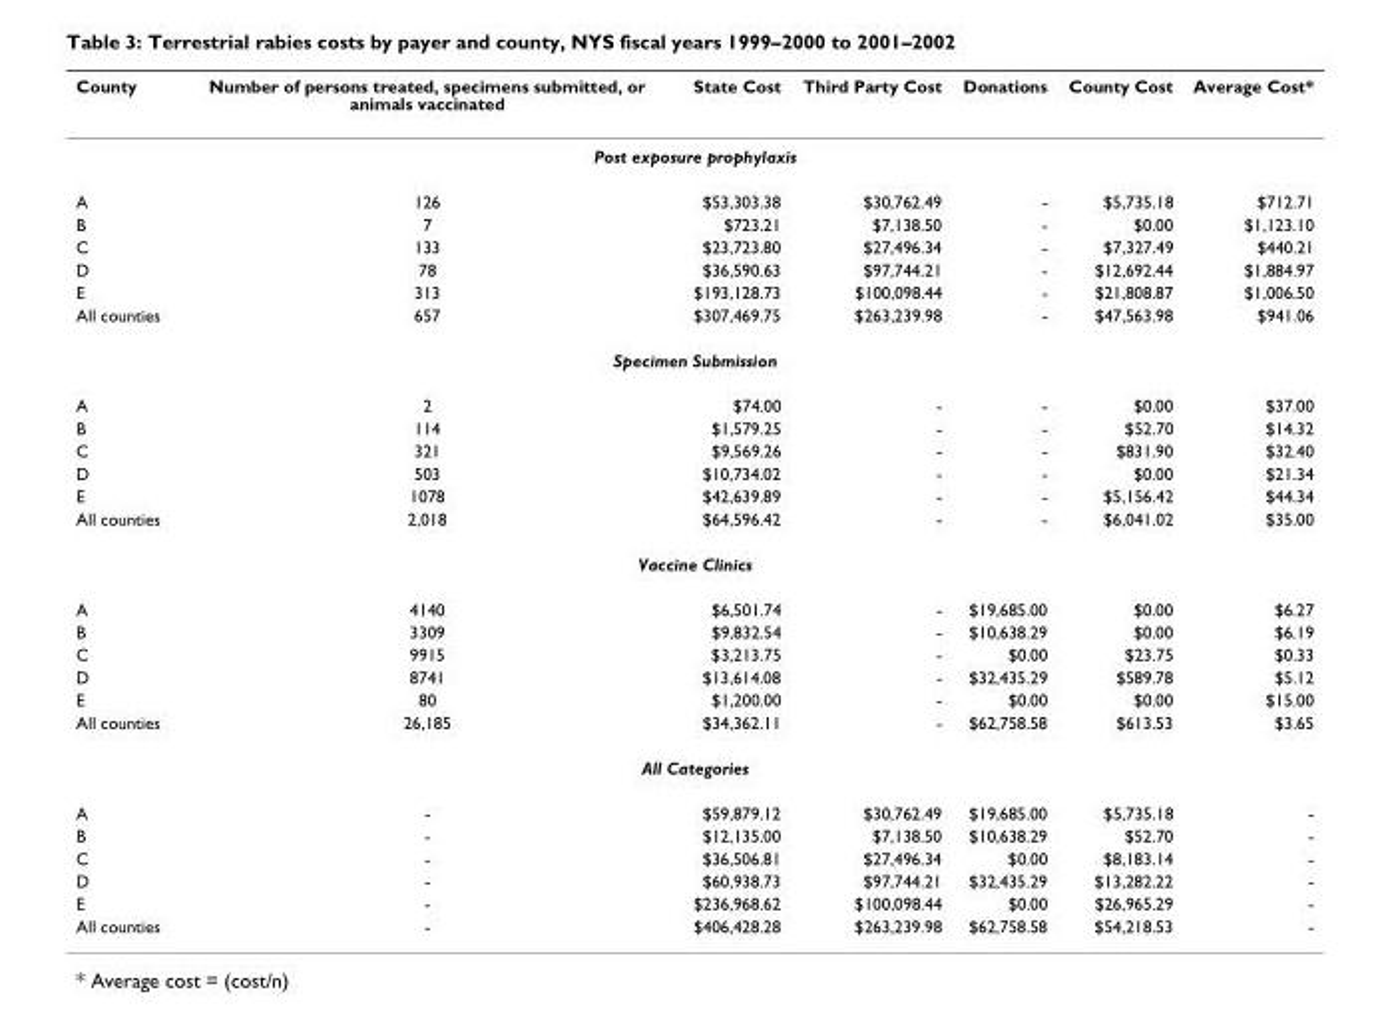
<table><thead><tr><td>County</td><td>Number of persons treated, specimens submitted, or animals vaccinated</td><td>State Cost</td><td>Third Party Cost</td><td>Donations</td><td>County Cost</td><td>Average Cost*</td></tr></thead><tbody><tr><td colspan="7">Post exposure prophylaxis</td></tr><tr><td>A</td><td>126</td><td>$53,303.38</td><td>$30,762.49</td><td>-</td><td>$5,735.18</td><td>$712.71</td></tr><tr><td>B</td><td>7</td><td>$723.21</td><td>$7,138.50</td><td>-</td><td>$0.00</td><td>$1,123.10</td></tr><tr><td>C</td><td>133</td><td>$23,723.80</td><td>$27,496.34</td><td>-</td><td>$7,327.49</td><td>$440.21</td></tr><tr><td>D</td><td>78</td><td>$36,590.63</td><td>$97,744.21</td><td>-</td><td>$12,692.44</td><td>$1,884.97</td></tr><tr><td>E</td><td>313</td><td>$193,128.73</td><td>$100,098.44</td><td>-</td><td>$21,808.87</td><td>$1,006.50</td></tr><tr><td>All counties</td><td>657</td><td>$307,469.75</td><td>$263,239.98</td><td>-</td><td>$47,563.98</td><td>$941.06</td></tr><tr><td colspan="7">Specimen Submission</td></tr><tr><td>A</td><td>2</td><td>$74.00</td><td>-</td><td>-</td><td>$0.00</td><td>$37.00</td></tr><tr><td>B</td><td>114</td><td>$1,579.25</td><td>-</td><td>-</td><td>$52.70</td><td>$14.32</td></tr><tr><td>C</td><td>321</td><td>$9,569.26</td><td>-</td><td>-</td><td>$831.90</td><td>$32.40</td></tr><tr><td>D</td><td>503</td><td>$10,734.02</td><td>-</td><td>-</td><td>$0.00</td><td>$21.34</td></tr><tr><td>E</td><td>1078</td><td>$42,639.89</td><td>-</td><td>-</td><td>$5,156.42</td><td>$44.34</td></tr><tr><td>All counties</td><td>2,018</td><td>$64,596.42</td><td>-</td><td>-</td><td>$6,041.02</td><td>$35.00</td></tr><tr><td colspan="7">Vaccine Clinics</td></tr><tr><td>A</td><td>4140</td><td>$6,501.74</td><td>-</td><td>$19,685.00</td><td>$0.00</td><td>$6.27</td></tr><tr><td>B</td><td>3309</td><td>$9,832.54</td><td>-</td><td>$10,638.29</td><td>$0.00</td><td>$6.19</td></tr><tr><td>C</td><td>9915</td><td>$3,213.75</td><td>-</td><td>$0.00</td><td>$23.75</td><td>$0.33</td></tr><tr><td>D</td><td>8741</td><td>$13,614.08</td><td>-</td><td>$32,435.29</td><td>$589.78</td><td>$5.12</td></tr><tr><td>E</td><td>80</td><td>$1,200.00</td><td>-</td><td>$0.00</td><td>$0.00</td><td>$15.00</td></tr><tr><td>All counties</td><td>26,185</td><td>$34,362.11</td><td>-</td><td>$62,758.58</td><td>$613.53</td><td>$3.65</td></tr><tr><td colspan="7">All Categories</td></tr><tr><td>A</td><td>-</td><td>$59,879.12</td><td>$30,762.49</td><td>$19,685.00</td><td>$5,735.18</td><td>-</td></tr><tr><td>B</td><td>-</td><td>$12,135.00</td><td>$7,138.50</td><td>$10,638.29</td><td>$52.70</td><td>-</td></tr><tr><td>C</td><td>-</td><td>$36,506.81</td><td>$27,496.34</td><td>$0.00</td><td>$8,183.14</td><td>-</td></tr><tr><td>D</td><td>-</td><td>$60,938.73</td><td>$97,744.21</td><td>$32,435.29</td><td>$13,282.22</td><td>-</td></tr><tr><td>E</td><td>-</td><td>$236,968.62</td><td>$100,098.44</td><td>$0.00</td><td>$26,965.29</td><td>-</td></tr><tr><td>All counties</td><td>-</td><td>$406,428.28</td><td>$263,239.98</td><td>$62,758.58</td><td>$54,218.53</td><td>-</td></tr></tbody></table>